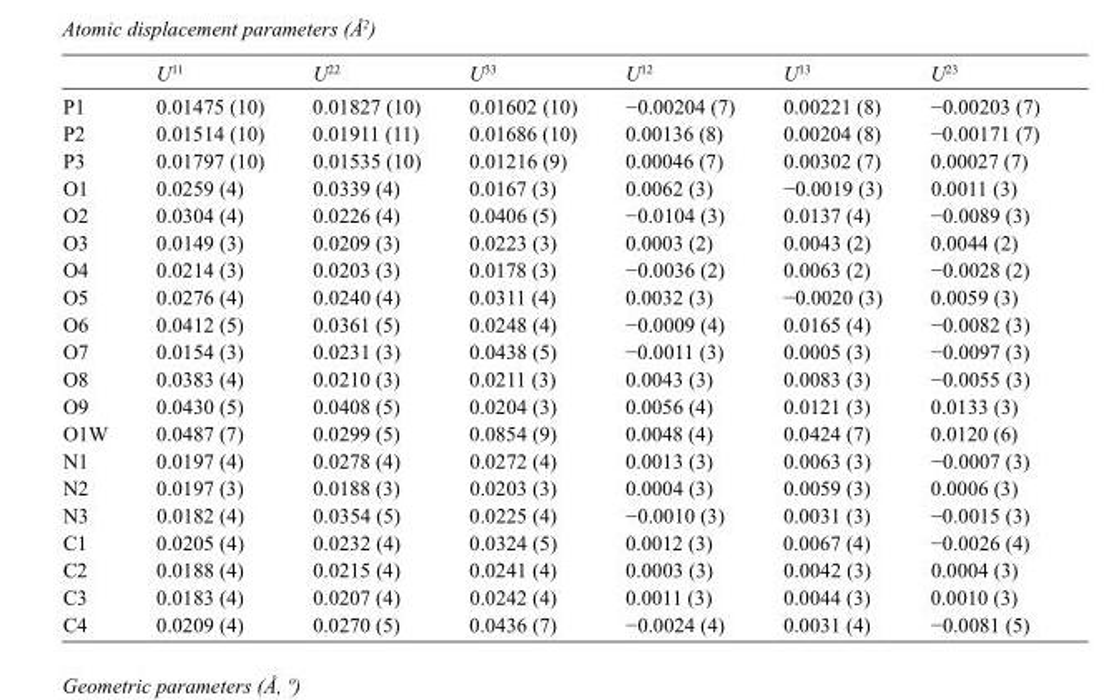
<table><thead><tr><td></td><td>U<sup>11</sup></td><td>U<sup>22</sup></td><td>U<sup>33</sup></td><td>U<sup>12</sup></td><td>U<sup>13</sup></td><td>U<sup>23</sup></td></tr></thead><tbody><tr><td>P1</td><td>0.01475 (10)</td><td>0.01827 (10)</td><td>0.01602 (10)</td><td>−0.00204 (7)</td><td>0.00221 (8)</td><td>−0.00203 (7)</td></tr><tr><td>P2</td><td>0.01514 (10)</td><td>0.01911 (11)</td><td>0.01686 (10)</td><td>0.00136 (8)</td><td>0.00204 (8)</td><td>−0.00171 (7)</td></tr><tr><td>P3</td><td>0.01797 (10)</td><td>0.01535 (10)</td><td>0.01216 (9)</td><td>0.00046 (7)</td><td>0.00302 (7)</td><td>0.00027 (7)</td></tr><tr><td>O1</td><td>0.0259 (4)</td><td>0.0339 (4)</td><td>0.0167 (3)</td><td>0.0062 (3)</td><td>−0.0019 (3)</td><td>0.0011 (3)</td></tr><tr><td>O2</td><td>0.0304 (4)</td><td>0.0226 (4)</td><td>0.0406 (5)</td><td>−0.0104 (3)</td><td>0.0137 (4)</td><td>−0.0089 (3)</td></tr><tr><td>O3</td><td>0.0149 (3)</td><td>0.0209 (3)</td><td>0.0223 (3)</td><td>0.0003 (2)</td><td>0.0043 (2)</td><td>0.0044 (2)</td></tr><tr><td>O4</td><td>0.0214 (3)</td><td>0.0203 (3)</td><td>0.0178 (3)</td><td>−0.0036 (2)</td><td>0.0063 (2)</td><td>−0.0028 (2)</td></tr><tr><td>O5</td><td>0.0276 (4)</td><td>0.0240 (4)</td><td>0.0311 (4)</td><td>0.0032 (3)</td><td>−0.0020 (3)</td><td>0.0059 (3)</td></tr><tr><td>O6</td><td>0.0412 (5)</td><td>0.0361 (5)</td><td>0.0248 (4)</td><td>−0.0009 (4)</td><td>0.0165 (4)</td><td>−0.0082 (3)</td></tr><tr><td>O7</td><td>0.0154 (3)</td><td>0.0231 (3)</td><td>0.0438 (5)</td><td>−0.0011 (3)</td><td>0.0005 (3)</td><td>−0.0097 (3)</td></tr><tr><td>O8</td><td>0.0383 (4)</td><td>0.0210 (3)</td><td>0.0211 (3)</td><td>0.0043 (3)</td><td>0.0083 (3)</td><td>−0.0055 (3)</td></tr><tr><td>O9</td><td>0.0430 (5)</td><td>0.0408 (5)</td><td>0.0204 (3)</td><td>0.0056 (4)</td><td>0.0121 (3)</td><td>0.0133 (3)</td></tr><tr><td>O1W</td><td>0.0487 (7)</td><td>0.0299 (5)</td><td>0.0854 (9)</td><td>0.0048 (4)</td><td>0.0424 (7)</td><td>0.0120 (6)</td></tr><tr><td>N1</td><td>0.0197 (4)</td><td>0.0278 (4)</td><td>0.0272 (4)</td><td>0.0013 (3)</td><td>0.0063 (3)</td><td>−0.0007 (3)</td></tr><tr><td>N2</td><td>0.0197 (3)</td><td>0.0188 (3)</td><td>0.0203 (3)</td><td>0.0004 (3)</td><td>0.0059 (3)</td><td>0.0006 (3)</td></tr><tr><td>N3</td><td>0.0182 (4)</td><td>0.0354 (5)</td><td>0.0225 (4)</td><td>−0.0010 (3)</td><td>0.0031 (3)</td><td>−0.0015 (3)</td></tr><tr><td>C1</td><td>0.0205 (4)</td><td>0.0232 (4)</td><td>0.0324 (5)</td><td>0.0012 (3)</td><td>0.0067 (4)</td><td>−0.0026 (4)</td></tr><tr><td>C2</td><td>0.0188 (4)</td><td>0.0215 (4)</td><td>0.0241 (4)</td><td>0.0003 (3)</td><td>0.0042 (3)</td><td>0.0004 (3)</td></tr><tr><td>C3</td><td>0.0183 (4)</td><td>0.0207 (4)</td><td>0.0242 (4)</td><td>0.0011 (3)</td><td>0.0044 (3)</td><td>0.0010 (3)</td></tr><tr><td>C4</td><td>0.0209 (4)</td><td>0.0270 (5)</td><td>0.0436 (7)</td><td>−0.0024 (4)</td><td>0.0031 (4)</td><td>−0.0081 (5)</td></tr></tbody></table>